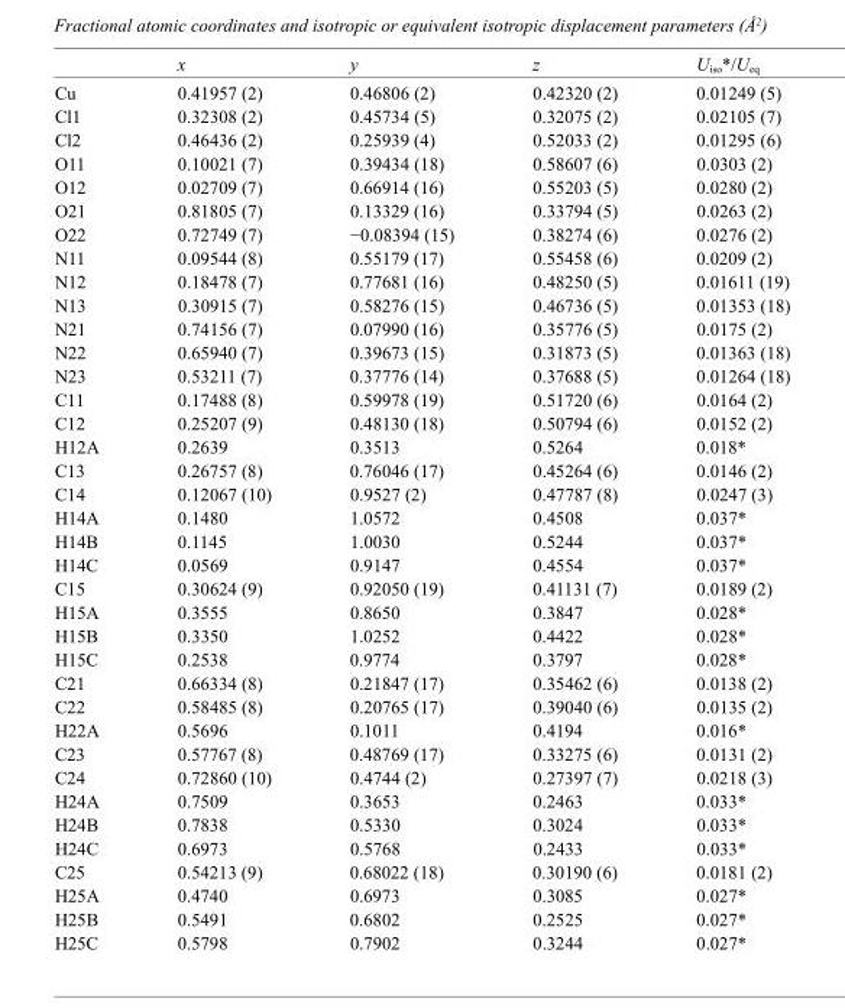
<table><thead><tr><td></td><td>x</td><td>y</td><td>z</td><td>U<sub>iso</sub>*/U<sub>eq</sub></td></tr></thead><tbody><tr><td>Cu</td><td>0.41957 (2)</td><td>0.46806 (2)</td><td>0.42320 (2)</td><td>0.01249 (5)</td></tr><tr><td>Cl1</td><td>0.32308 (2)</td><td>0.45734 (5)</td><td>0.32075 (2)</td><td>0.02105 (7)</td></tr><tr><td>Cl2</td><td>0.46436 (2)</td><td>0.25939 (4)</td><td>0.52033 (2)</td><td>0.01295 (6)</td></tr><tr><td>O11</td><td>0.10021 (7)</td><td>0.39434 (18)</td><td>0.58607 (6)</td><td>0.0303 (2)</td></tr><tr><td>O12</td><td>0.02709 (7)</td><td>0.66914 (16)</td><td>0.55203 (5)</td><td>0.0280 (2)</td></tr><tr><td>O21</td><td>0.81805 (7)</td><td>0.13329 (16)</td><td>0.33794 (5)</td><td>0.0263 (2)</td></tr><tr><td>O22</td><td>0.72749 (7)</td><td>−0.08394 (15)</td><td>0.38274 (6)</td><td>0.0276 (2)</td></tr><tr><td>N11</td><td>0.09544 (8)</td><td>0.55179 (17)</td><td>0.55458 (6)</td><td>0.0209 (2)</td></tr><tr><td>N12</td><td>0.18478 (7)</td><td>0.77681 (16)</td><td>0.48250 (5)</td><td>0.01611 (19)</td></tr><tr><td>N13</td><td>0.30915 (7)</td><td>0.58276 (15)</td><td>0.46736 (5)</td><td>0.01353 (18)</td></tr><tr><td>N21</td><td>0.74156 (7)</td><td>0.07990 (16)</td><td>0.35776 (5)</td><td>0.0175 (2)</td></tr><tr><td>N22</td><td>0.65940 (7)</td><td>0.39673 (15)</td><td>0.31873 (5)</td><td>0.01363 (18)</td></tr><tr><td>N23</td><td>0.53211 (7)</td><td>0.37776 (14)</td><td>0.37688 (5)</td><td>0.01264 (18)</td></tr><tr><td>C11</td><td>0.17488 (8)</td><td>0.59978 (19)</td><td>0.51720 (6)</td><td>0.0164 (2)</td></tr><tr><td>C12</td><td>0.25207 (9)</td><td>0.48130 (18)</td><td>0.50794 (6)</td><td>0.0152 (2)</td></tr><tr><td>H12A</td><td>0.2639</td><td>0.3513</td><td>0.5264</td><td>0.018*</td></tr><tr><td>C13</td><td>0.26757 (8)</td><td>0.76046 (17)</td><td>0.45264 (6)</td><td>0.0146 (2)</td></tr><tr><td>C14</td><td>0.12067 (10)</td><td>0.9527 (2)</td><td>0.47787 (8)</td><td>0.0247 (3)</td></tr><tr><td>H14A</td><td>0.1480</td><td>1.0572</td><td>0.4508</td><td>0.037*</td></tr><tr><td>H14B</td><td>0.1145</td><td>1.0030</td><td>0.5244</td><td>0.037*</td></tr><tr><td>H14C</td><td>0.0569</td><td>0.9147</td><td>0.4554</td><td>0.037*</td></tr><tr><td>C15</td><td>0.30624 (9)</td><td>0.92050 (19)</td><td>0.41131 (7)</td><td>0.0189 (2)</td></tr><tr><td>H15A</td><td>0.3555</td><td>0.8650</td><td>0.3847</td><td>0.028*</td></tr><tr><td>H15B</td><td>0.3350</td><td>1.0252</td><td>0.4422</td><td>0.028*</td></tr><tr><td>H15C</td><td>0.2538</td><td>0.9774</td><td>0.3797</td><td>0.028*</td></tr><tr><td>C21</td><td>0.66334 (8)</td><td>0.21847 (17)</td><td>0.35462 (6)</td><td>0.0138 (2)</td></tr><tr><td>C22</td><td>0.58485 (8)</td><td>0.20765 (17)</td><td>0.39040 (6)</td><td>0.0135 (2)</td></tr><tr><td>H22A</td><td>0.5696</td><td>0.1011</td><td>0.4194</td><td>0.016*</td></tr><tr><td>C23</td><td>0.57767 (8)</td><td>0.48769 (17)</td><td>0.33275 (6)</td><td>0.0131 (2)</td></tr><tr><td>C24</td><td>0.72860 (10)</td><td>0.4744 (2)</td><td>0.27397 (7)</td><td>0.0218 (3)</td></tr><tr><td>H24A</td><td>0.7509</td><td>0.3653</td><td>0.2463</td><td>0.033*</td></tr><tr><td>H24B</td><td>0.7838</td><td>0.5330</td><td>0.3024</td><td>0.033*</td></tr><tr><td>H24C</td><td>0.6973</td><td>0.5768</td><td>0.2433</td><td>0.033*</td></tr><tr><td>C25</td><td>0.54213 (9)</td><td>0.68022 (18)</td><td>0.30190 (6)</td><td>0.0181 (2)</td></tr><tr><td>H25A</td><td>0.4740</td><td>0.6973</td><td>0.3085</td><td>0.027*</td></tr><tr><td>H25B</td><td>0.5491</td><td>0.6802</td><td>0.2525</td><td>0.027*</td></tr><tr><td>H25C</td><td>0.5798</td><td>0.7902</td><td>0.3244</td><td>0.027*</td></tr></tbody></table>